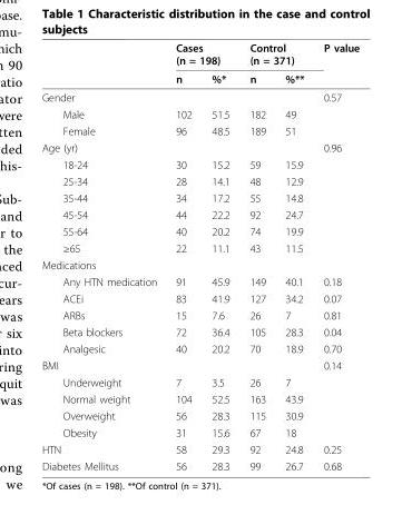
<table><thead><tr><td rowspan="2"></td><td colspan="2">Cases (n = 198)</td><td colspan="2">Control (n = 371)</td><td rowspan="2">P value</td></tr><tr><td>n</td><td>%*</td><td>n</td><td>%**</td></tr></thead><tbody><tr><td>Gender</td><td></td><td></td><td></td><td></td><td>0.57</td></tr><tr><td>Male</td><td>102</td><td>51.5</td><td>182</td><td>49</td><td></td></tr><tr><td>Female</td><td>96</td><td>48.5</td><td>189</td><td>51</td><td></td></tr><tr><td>Age (yr)</td><td></td><td></td><td></td><td></td><td>0.96</td></tr><tr><td>18-24</td><td>30</td><td>15.2</td><td>59</td><td>15.9</td><td></td></tr><tr><td>25-34</td><td>28</td><td>14.1</td><td>48</td><td>12.9</td><td></td></tr><tr><td>35-44</td><td>34</td><td>17.2</td><td>55</td><td>14.8</td><td></td></tr><tr><td>45-54</td><td>44</td><td>22.2</td><td>92</td><td>24.7</td><td></td></tr><tr><td>55-64</td><td>40</td><td>20.2</td><td>74</td><td>19.9</td><td></td></tr><tr><td>≥65</td><td>22</td><td>11.1</td><td>43</td><td>11.5</td><td></td></tr><tr><td colspan="6">Medications</td></tr><tr><td>Any HTN medication</td><td>91</td><td>45.9</td><td>149</td><td>40.1</td><td>0.18</td></tr><tr><td>ACEi</td><td>83</td><td>41.9</td><td>127</td><td>34.2</td><td>0.07</td></tr><tr><td>ARBs</td><td>15</td><td>7.6</td><td>26</td><td>7</td><td>0.81</td></tr><tr><td>Beta blockers</td><td>72</td><td>36.4</td><td>105</td><td>28.3</td><td>0.04</td></tr><tr><td>Analgesic</td><td>40</td><td>20.2</td><td>70</td><td>18.9</td><td>0.70</td></tr><tr><td>BMI</td><td></td><td></td><td></td><td></td><td>0.14</td></tr><tr><td>Underweight</td><td>7</td><td>3.5</td><td>26</td><td>7</td><td></td></tr><tr><td>Normal weight</td><td>104</td><td>52.5</td><td>163</td><td>43.9</td><td></td></tr><tr><td>Overweight</td><td>56</td><td>28.3</td><td>115</td><td>30.9</td><td></td></tr><tr><td>Obesity</td><td>31</td><td>15.6</td><td>67</td><td>18</td><td></td></tr><tr><td>HTN</td><td>58</td><td>29.3</td><td>92</td><td>24.8</td><td>0.25</td></tr><tr><td>Diabetes Mellitus</td><td>56</td><td>28.3</td><td>99</td><td>26.7</td><td>0.68</td></tr></tbody></table>